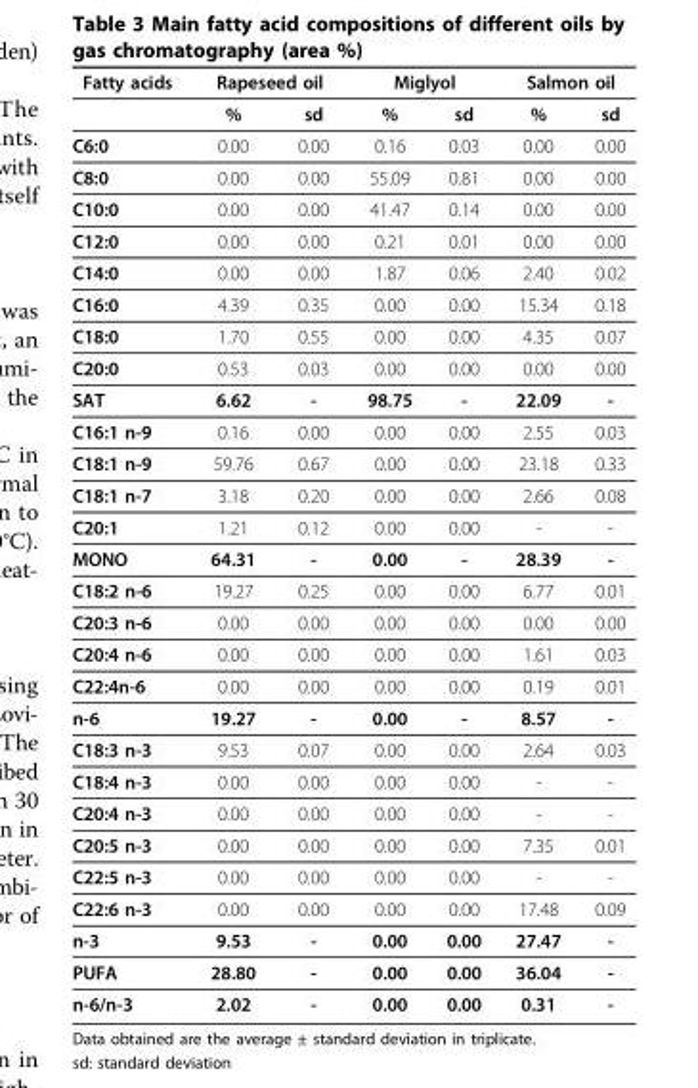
<table><thead><tr><td rowspan="2">Fatty acids</td><td colspan="2">Rapeseed oil</td><td colspan="2">Miglyol</td><td colspan="2">Salmon oil</td></tr><tr><td>%</td><td>sd</td><td>%</td><td>sd</td><td>%</td><td>sd</td></tr></thead><tbody><tr><td>C6:0</td><td>0.00</td><td>0.00</td><td>0.16</td><td>0.03</td><td>0.00</td><td>0.00</td></tr><tr><td>C8:0</td><td>0.00</td><td>0.00</td><td>55.09</td><td>0.81</td><td>0.00</td><td>0.00</td></tr><tr><td>C10:0</td><td>0.00</td><td>0.00</td><td>41.47</td><td>0.14</td><td>0.00</td><td>0.00</td></tr><tr><td>C12:0</td><td>0.00</td><td>0.00</td><td>0.21</td><td>0.01</td><td>0.00</td><td>0.00</td></tr><tr><td>C14:0</td><td>0.00</td><td>0.00</td><td>1.87</td><td>0.06</td><td>2.40</td><td>0.02</td></tr><tr><td>C16:0</td><td>4.39</td><td>0.35</td><td>0.00</td><td>0.00</td><td>15.34</td><td>0.18</td></tr><tr><td>C18:0</td><td>1.70</td><td>0.55</td><td>0.00</td><td>0.00</td><td>4.35</td><td>0.07</td></tr><tr><td>C20:0</td><td>0.53</td><td>0.03</td><td>0.00</td><td>0.00</td><td>0.00</td><td>0.00</td></tr><tr><td>SAT</td><td>6.62</td><td>-</td><td>98.75</td><td>-</td><td>22.09</td><td>-</td></tr><tr><td>C16:1 n-9</td><td>0.16</td><td>0.00</td><td>0.00</td><td>0.00</td><td>2.55</td><td>0.03</td></tr><tr><td>C18:1 n-9</td><td>59.76</td><td>0.67</td><td>0.00</td><td>0.00</td><td>23.18</td><td>0.33</td></tr><tr><td>C18:1 n-7</td><td>3.18</td><td>0.20</td><td>0.00</td><td>0.00</td><td>2.66</td><td>0.08</td></tr><tr><td>C20:1</td><td>1.21</td><td>0.12</td><td>0.00</td><td>0.00</td><td>-</td><td>-</td></tr><tr><td>MONO</td><td>64.31</td><td>-</td><td>0.00</td><td>-</td><td>28.39</td><td>-</td></tr><tr><td>C18:2 n-6</td><td>19.27</td><td>0.25</td><td>0.00</td><td>0.00</td><td>6.77</td><td>0.01</td></tr><tr><td>C20:3 n-6</td><td>0.00</td><td>0.00</td><td>0.00</td><td>0.00</td><td>0.00</td><td>0.00</td></tr><tr><td>C20:4 n-6</td><td>0.00</td><td>0.00</td><td>0.00</td><td>0.00</td><td>1.61</td><td>0.03</td></tr><tr><td>C22:4n-6</td><td>0.00</td><td>0.00</td><td>0.00</td><td>0.00</td><td>0.19</td><td>0.01</td></tr><tr><td>n-6</td><td>19.27</td><td>-</td><td>0.00</td><td>-</td><td>8.57</td><td>-</td></tr><tr><td>C18:3 n-3</td><td>9.53</td><td>0.07</td><td>0.00</td><td>0.00</td><td>2.64</td><td>0.03</td></tr><tr><td>C18:4 n-3</td><td>0.00</td><td>0.00</td><td>0.00</td><td>0.00</td><td>-</td><td>-</td></tr><tr><td>C20:4 n-3</td><td>0.00</td><td>0.00</td><td>0.00</td><td>0.00</td><td>-</td><td>-</td></tr><tr><td>C20:5 n-3</td><td>0.00</td><td>0.00</td><td>0.00</td><td>0.00</td><td>7.35</td><td>0.01</td></tr><tr><td>C22:5 n-3</td><td>0.00</td><td>0.00</td><td>0.00</td><td>0.00</td><td>-</td><td>-</td></tr><tr><td>C22:6 n-3</td><td>0.00</td><td>0.00</td><td>0.00</td><td>0.00</td><td>17.48</td><td>0.09</td></tr><tr><td>n-3</td><td>9.53</td><td>-</td><td>0.00</td><td>0.00</td><td>27.47</td><td>-</td></tr><tr><td>PUFA</td><td>28.80</td><td>-</td><td>0.00</td><td>0.00</td><td>36.04</td><td>-</td></tr><tr><td>n-6/n-3</td><td>2.02</td><td>-</td><td>0.00</td><td>0.00</td><td>0.31</td><td>-</td></tr></tbody></table>